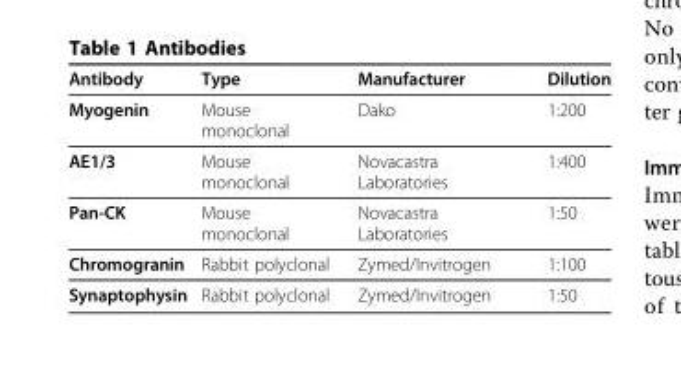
<table><thead><tr><td>Antibody</td><td>Type</td><td>Manufacturer</td><td>Dilution</td></tr></thead><tbody><tr><td>Myogenin</td><td>Mouse monoclonal</td><td>Dako</td><td>1:200</td></tr><tr><td>AE1/3</td><td>Mouse monoclonal</td><td>Novacastra Laboratories</td><td>1:400</td></tr><tr><td>Pan-CK</td><td>Mouse monoclonal</td><td>Novacastra Laboratories</td><td>1:50</td></tr><tr><td>Chromogranin</td><td>Rabbit polyclonal</td><td>Zymed/Invitrogen</td><td>1:100</td></tr><tr><td>Synaptophysin</td><td>Rabbit polyclonal</td><td>Zymed/Invitrogen</td><td>1:50</td></tr></tbody></table>